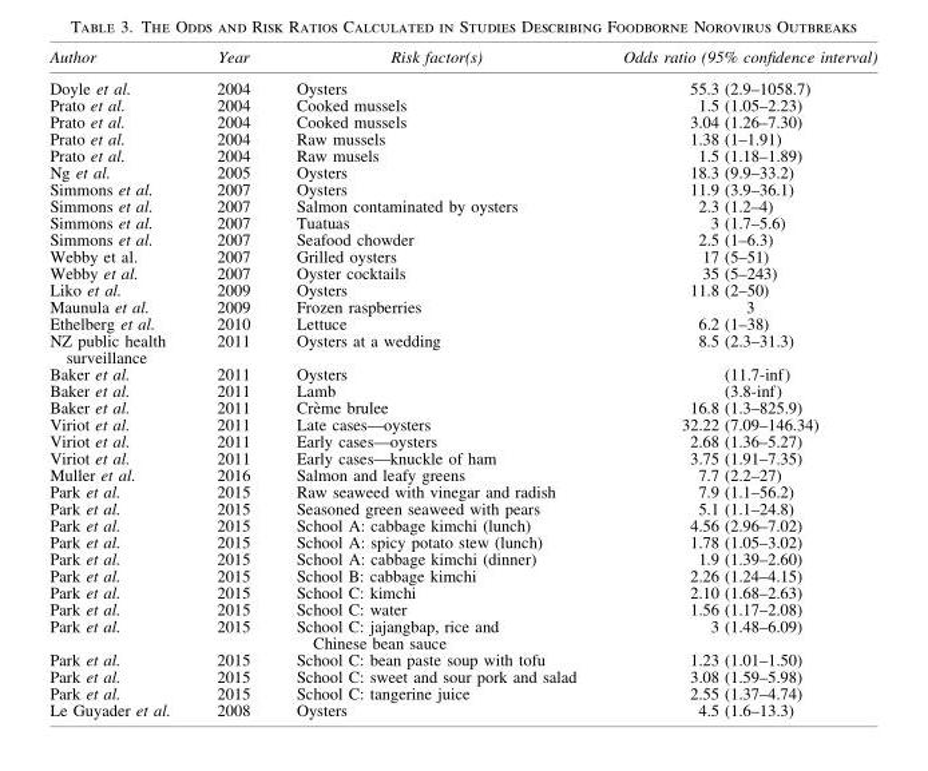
<table><thead><tr><td>Author</td><td>Year</td><td>Risk factor(s)</td><td>Odds ratio (95% confidence interval)</td></tr></thead><tbody><tr><td>Doyle et al.</td><td>2004</td><td>Oysters</td><td>55.3 (2.9–1058.7)</td></tr><tr><td>Prato et al.</td><td>2004</td><td>Cooked mussels</td><td>1.5 (1.05–2.23)</td></tr><tr><td>Prato et al.</td><td>2004</td><td>Cooked mussels</td><td>3.04 (1.26–7.30)</td></tr><tr><td>Prato et al.</td><td>2004</td><td>Raw mussels</td><td>1.38 (1–1.91)</td></tr><tr><td>Prato et al.</td><td>2004</td><td>Raw musels</td><td>1.5 (1.18–1.89)</td></tr><tr><td>Ng et al.</td><td>2005</td><td>Oysters</td><td>18.3 (9.9–33.2)</td></tr><tr><td>Simmons et al.</td><td>2007</td><td>Oysters</td><td>11.9 (3.9–36.1)</td></tr><tr><td>Simmons et al.</td><td>2007</td><td>Salmon contaminated by oysters</td><td>2.3 (1.2–4)</td></tr><tr><td>Simmons et al.</td><td>2007</td><td>Tuatuas</td><td>3 (1.7–5.6)</td></tr><tr><td>Simmons et al.</td><td>2007</td><td>Seafood chowder</td><td>2.5 (1–6.3)</td></tr><tr><td>Webby et al.</td><td>2007</td><td>Grilled oysters</td><td>17 (5–51)</td></tr><tr><td>Webby et al.</td><td>2007</td><td>Oyster cocktails</td><td>35 (5–243)</td></tr><tr><td>Liko et al.</td><td>2009</td><td>Oysters</td><td>11.8 (2–50)</td></tr><tr><td>Maunula et al.</td><td>2009</td><td>Frozen raspberries</td><td>3</td></tr><tr><td>Ethelberg et al.</td><td>2010</td><td>Lettuce</td><td>6.2 (1–38)</td></tr><tr><td>NZ public health surveillance</td><td>2011</td><td>Oysters at a wedding</td><td>8.5 (2.3–31.3)</td></tr><tr><td>Baker et al.</td><td>2011</td><td>Oysters</td><td>(11.7-inf)</td></tr><tr><td>Baker et al.</td><td>2011</td><td>Lamb</td><td>(3.8-inf)</td></tr><tr><td>Baker et al.</td><td>2011</td><td>Cre`me brulee</td><td>16.8 (1.3–825.9)</td></tr><tr><td>Viriot et al.</td><td>2011</td><td>Late cases—oysters</td><td>32.22 (7.09–146.34)</td></tr><tr><td>Viriot et al.</td><td>2011</td><td>Early cases—oysters</td><td>2.68 (1.36–5.27)</td></tr><tr><td>Viriot et al.</td><td>2011</td><td>Early cases—knuckle of ham</td><td>3.75 (1.91–7.35)</td></tr><tr><td>Muller et al.</td><td>2016</td><td>Salmon and leafy greens</td><td>7.7 (2.2–27)</td></tr><tr><td>Park et al.</td><td>2015</td><td>Raw seaweed with vinegar and radish</td><td>7.9 (1.1–56.2)</td></tr><tr><td>Park et al.</td><td>2015</td><td>Seasoned green seaweed with pears</td><td>5.1 (1.1–24.8)</td></tr><tr><td>Park et al.</td><td>2015</td><td>School A: cabbage kimchi (lunch)</td><td>4.56 (2.96–7.02)</td></tr><tr><td>Park et al.</td><td>2015</td><td>School A: spicy potato stew (lunch)</td><td>1.78 (1.05–3.02)</td></tr><tr><td>Park et al.</td><td>2015</td><td>School A: cabbage kimchi (dinner)</td><td>1.9 (1.39–2.60)</td></tr><tr><td>Park et al.</td><td>2015</td><td>School B: cabbage kimchi</td><td>2.26 (1.24–4.15)</td></tr><tr><td>Park et al.</td><td>2015</td><td>School C: kimchi</td><td>2.10 (1.68–2.63)</td></tr><tr><td>Park et al.</td><td>2015</td><td>School C: water</td><td>1.56 (1.17–2.08)</td></tr><tr><td>Park et al.</td><td>2015</td><td>School C: jajangbap, rice and Chinese bean sauce</td><td>3 (1.48–6.09)</td></tr><tr><td>Park et al.</td><td>2015</td><td>School C: bean paste soup with tofu</td><td>1.23 (1.01–1.50)</td></tr><tr><td>Park et al.</td><td>2015</td><td>School C: sweet and sour pork and salad</td><td>3.08 (1.59–5.98)</td></tr><tr><td>Park et al.</td><td>2015</td><td>School C: tangerine juice</td><td>2.55 (1.37–4.74)</td></tr><tr><td>Le Guyader et al.</td><td>2008</td><td>Oysters</td><td>4.5 (1.6–13.3)</td></tr></tbody></table>